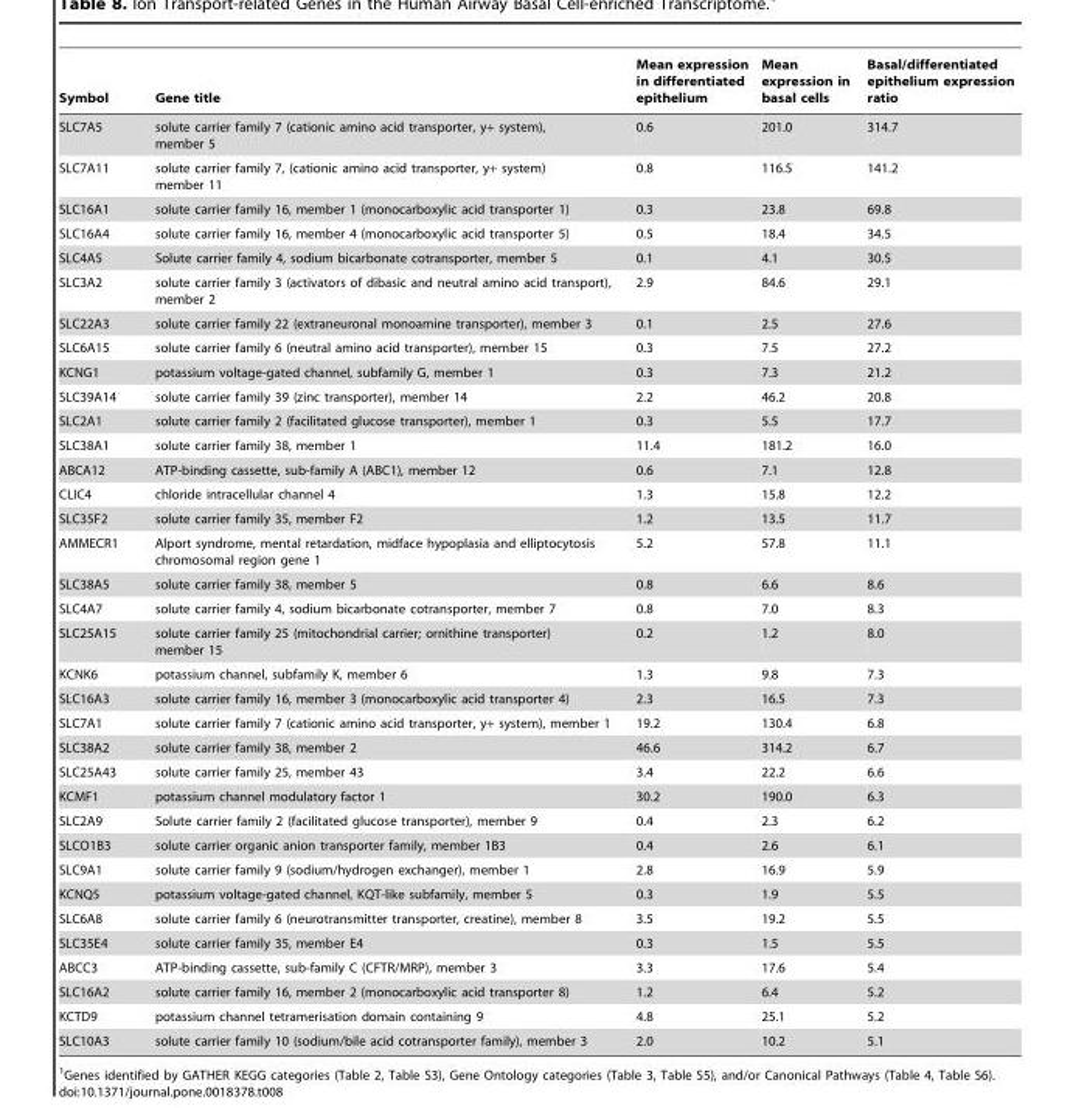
<table><thead><tr><td>Symbol</td><td>Gene title</td><td>Mean expression in differentiated epithelium</td><td>Mean expression in basal cells</td><td>Basal/differentiated epithelium expression ratio</td></tr></thead><tbody><tr><td>SLC7A5</td><td>solute carrier family 7 (cationic amino acid transporter, y+ system), member 5</td><td>0.6</td><td>201.0</td><td>314.7</td></tr><tr><td>SLC7A11</td><td>solute carrier family 7, (cationic amino acid transporter, y+ system) member 11</td><td>0.8</td><td>116.5</td><td>141.2</td></tr><tr><td>SLC16A1</td><td>solute carrier family 16, member 1 (monocarboxylic acid transporter 1)</td><td>0.3</td><td>23.8</td><td>69.8</td></tr><tr><td>SLC16A4</td><td>solute carrier family 16, member 4 (monocarboxylic acid transporter 5)</td><td>0.5</td><td>18.4</td><td>34.5</td></tr><tr><td>SLC4A5</td><td>Solute carrier family 4, sodium bicarbonate cotransporter, member 5</td><td>0.1</td><td>4.1</td><td>30.5</td></tr><tr><td>SLC3A2</td><td>solute carrier family 3 (activators of dibasic and neutral amino acid transport), member 2</td><td>2.9</td><td>84.6</td><td>29.1</td></tr><tr><td>SLC22A3</td><td>solute carrier family 22 (extraneuronal monoamine transporter), member 3</td><td>0.1</td><td>2.5</td><td>27.6</td></tr><tr><td>SLC6A15</td><td>solute carrier family 6 (neutral amino acid transporter), member 15</td><td>0.3</td><td>7.5</td><td>27.2</td></tr><tr><td>KCNG1</td><td>potassium voltage-gated channel, subfamily G, member 1</td><td>0.3</td><td>7.3</td><td>21.2</td></tr><tr><td>SLC39A14</td><td>solute carrier family 39 (zinc transporter), member 14</td><td>2.2</td><td>46.2</td><td>20.8</td></tr><tr><td>SLC2A1</td><td>solute carrier family 2 (facilitated glucose transporter), member 1</td><td>0.3</td><td>5.5</td><td>17.7</td></tr><tr><td>SLC38A1</td><td>solute carrier family 38, member 1</td><td>11.4</td><td>181.2</td><td>16.0</td></tr><tr><td>ABCA12</td><td>ATP-binding cassette, sub-family A (ABC1), member 12</td><td>0.6</td><td>7.1</td><td>12.8</td></tr><tr><td>CLIC4</td><td>chloride intracellular channel 4</td><td>1.3</td><td>15.8</td><td>12.2</td></tr><tr><td>SLC35F2</td><td>solute carrier family 35, member F2</td><td>1.2</td><td>13.5</td><td>11.7</td></tr><tr><td>AMMECR1</td><td>Alport syndrome, mental retardation, midface hypoplasia and elliptocytosis chromosomal region gene 1</td><td>5.2</td><td>57.8</td><td>11.1</td></tr><tr><td>SLC38A5</td><td>solute carrier family 38, member 5</td><td>0.8</td><td>6.6</td><td>8.6</td></tr><tr><td>SLC4A7</td><td>solute carrier family 4, sodium bicarbonate cotransporter, member 7</td><td>0.8</td><td>7.0</td><td>8.3</td></tr><tr><td>SLC25A15</td><td>solute carrier family 25 (mitochondrial carrier; ornithine transporter) member 15</td><td>0.2</td><td>1.2</td><td>8.0</td></tr><tr><td>KCNK6</td><td>potassium channel, subfamily K, member 6</td><td>1.3</td><td>9.8</td><td>7.3</td></tr><tr><td>SLC16A3</td><td>solute carrier family 16, member 3 (monocarboxylic acid transporter 4)</td><td>2.3</td><td>16.5</td><td>7.3</td></tr><tr><td>SLC7A1</td><td>solute carrier family 7 (cationic amino acid transporter, y+ system), member 1</td><td>19.2</td><td>130.4</td><td>6.8</td></tr><tr><td>SLC38A2</td><td>solute carrier family 38, member 2</td><td>46.6</td><td>314.2</td><td>6.7</td></tr><tr><td>SLC25A43</td><td>solute carrier family 25, member 43</td><td>3.4</td><td>22.2</td><td>6.6</td></tr><tr><td>KCMF1</td><td>potassium channel modulatory factor 1</td><td>30.2</td><td>190.0</td><td>6.3</td></tr><tr><td>SLC2A9</td><td>Solute carrier family 2 (facilitated glucose transporter), member 9</td><td>0.4</td><td>2.3</td><td>6.2</td></tr><tr><td>SLCO1B3</td><td>solute carrier organic anion transporter family, member 1B3</td><td>0.4</td><td>2.6</td><td>6.1</td></tr><tr><td>SLC9A1</td><td>solute carrier family 9 (sodium/hydrogen exchanger), member 1</td><td>2.8</td><td>16.9</td><td>5.9</td></tr><tr><td>KCNQ5</td><td>potassium voltage-gated channel, KQT-like subfamily, member 5</td><td>0.3</td><td>1.9</td><td>5.5</td></tr><tr><td>SLC6A8</td><td>solute carrier family 6 (neurotransmitter transporter, creatine), member 8</td><td>3.5</td><td>19.2</td><td>5.5</td></tr><tr><td>SLC35E4</td><td>solute carrier family 35, member E4</td><td>0.3</td><td>1.5</td><td>5.5</td></tr><tr><td>ABCC3</td><td>ATP-binding cassette, sub-family C (CFTR/MRP), member 3</td><td>3.3</td><td>17.6</td><td>5.4</td></tr><tr><td>SLC16A2</td><td>solute carrier family 16, member 2 (monocarboxylic acid transporter 8)</td><td>1.2</td><td>6.4</td><td>5.2</td></tr><tr><td>KCTD9</td><td>potassium channel tetramerisation domain containing 9</td><td>4.8</td><td>25.1</td><td>5.2</td></tr><tr><td>SLC10A3</td><td>solute carrier family 10 (sodium/bile acid cotransporter family), member 3</td><td>2.0</td><td>10.2</td><td>5.1</td></tr></tbody></table>